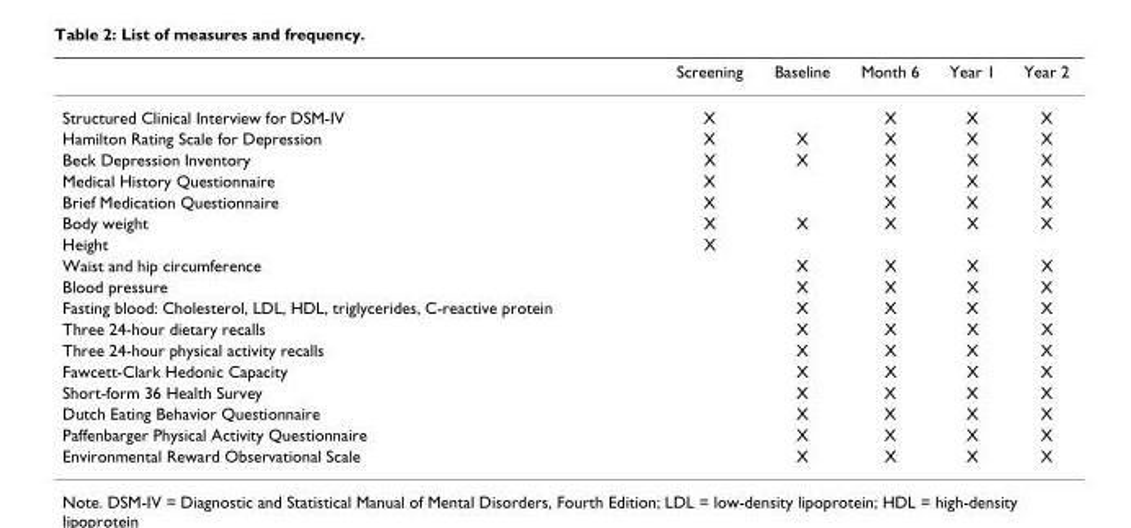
<table><thead><tr><td></td><td>Screening</td><td>Baseline</td><td>Month 6</td><td>Year 1</td><td>Year 2</td></tr></thead><tbody><tr><td>Structured Clinical Interview for DSM-IV</td><td>X</td><td></td><td>X</td><td>X</td><td>X</td></tr><tr><td>Hamilton Rating Scale for Depression</td><td>X</td><td>X</td><td>X</td><td>X</td><td>X</td></tr><tr><td>Beck Depression Inventory</td><td>X</td><td>X</td><td>X</td><td>X</td><td>X</td></tr><tr><td>Medical History Questionnaire</td><td>X</td><td></td><td>X</td><td>X</td><td>X</td></tr><tr><td>Brief Medication Questionnaire</td><td>X</td><td></td><td>X</td><td>X</td><td>X</td></tr><tr><td>Body weight</td><td>X</td><td>X</td><td>X</td><td>X</td><td>X</td></tr><tr><td>Height</td><td>X</td><td></td><td></td><td></td><td></td></tr><tr><td>Waist and hip circumference</td><td></td><td>X</td><td>X</td><td>X</td><td>X</td></tr><tr><td>Blood pressure</td><td></td><td>X</td><td>X</td><td>X</td><td>X</td></tr><tr><td>Fasting blood: Cholesterol, LDL, HDL, triglycerides, C-reactive protein</td><td></td><td>X</td><td>X</td><td>X</td><td>X</td></tr><tr><td>Three 24-hour dietary recalls</td><td></td><td>X</td><td>X</td><td>X</td><td>X</td></tr><tr><td>Three 24-hour physical activity recalls</td><td></td><td>X</td><td>X</td><td>X</td><td>X</td></tr><tr><td>Fawcett-Clark Hedonic Capacity</td><td></td><td>X</td><td>X</td><td>X</td><td>X</td></tr><tr><td>Short-form 36 Health Survey</td><td></td><td>X</td><td>X</td><td>X</td><td>X</td></tr><tr><td>Dutch Eating Behavior Questionnaire</td><td></td><td>X</td><td>X</td><td>X</td><td>X</td></tr><tr><td>Paffenbarger Physical Activity Questionnaire</td><td></td><td>X</td><td>X</td><td>X</td><td>X</td></tr><tr><td>Environmental Reward Observational Scale</td><td></td><td>X</td><td>X</td><td>X</td><td>X</td></tr></tbody></table>